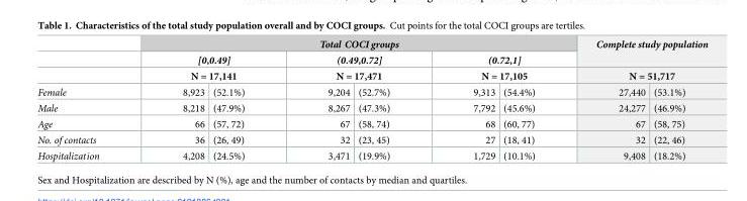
<table><thead><tr><td rowspan="4">Female</td><td colspan="6">Total COCI groups</td><td rowspan="3" colspan="2">Complete study population N = 51,717</td></tr><tr><td rowspan="2" colspan="2">[0,0.49] N = 17,141</td><td rowspan="2" colspan="2">(0.49,0.72] N = 17,471</td><td rowspan="2" colspan="2">(0.72,1] N = 17,105</td></tr><tr></tr><tr><td>8,923</td><td>(52.1%)</td><td>9,204</td><td>(52.7%)</td><td>9,313</td><td>(54.4%)</td><td>27,440</td><td>(53.1%)</td></tr></thead><tbody><tr><td>Male</td><td>8,218</td><td>(47.9%)</td><td>8,267</td><td>(47.3%)</td><td>7,792</td><td>(45.6%)</td><td>24,277</td><td>(46.9%)</td></tr><tr><td>Age</td><td>66</td><td>(57, 72)</td><td>67</td><td>(58, 74)</td><td>68</td><td>(60, 77)</td><td>67</td><td>(58, 75)</td></tr><tr><td>No. of contacts</td><td>36</td><td>(26, 49)</td><td>32</td><td>(23, 45)</td><td>27</td><td>(18, 41)</td><td>32</td><td>(22, 46)</td></tr><tr><td>Hospitalization</td><td>4,208</td><td>(24.5%)</td><td>3,471</td><td>(19.9%)</td><td>1,729</td><td>(10.1%)</td><td>9,408</td><td>(18.2%)</td></tr></tbody></table>